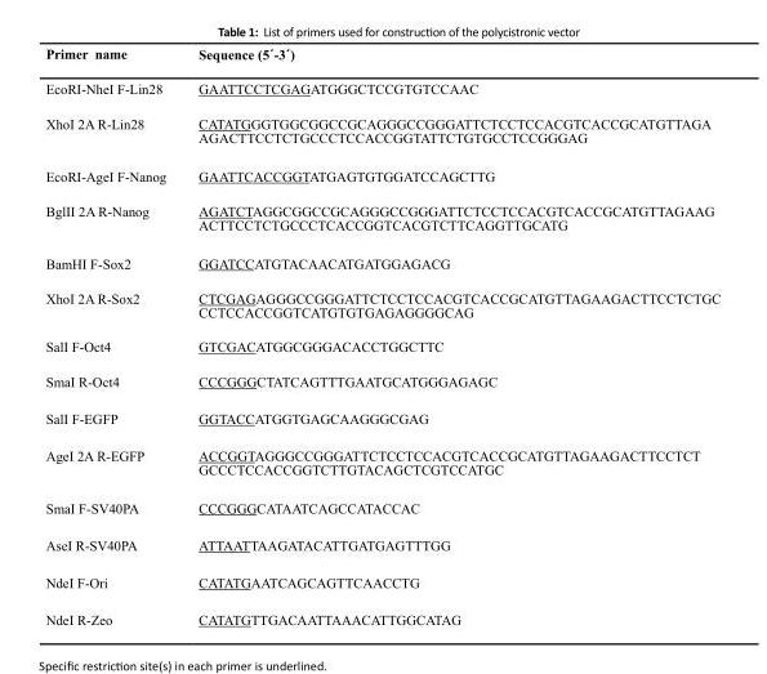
<table><thead><tr><td>Primer name</td><td>Sequence (5´-3´)</td></tr></thead><tbody><tr><td>EcoRI-NheI F-Lin28</td><td>GAATTCCTCGAGATGGGCTCCGTGTCCAAC</td></tr><tr><td>XhoI 2A R-Lin28</td><td>CATATGGGTGGCGGCCGCAGGGCCGGGATTCTCCTCCACGTCACCGCATGTTAGA AGACTTCCTCTGCCCTCCACCGGTATTCTGTGCCTCCGGGAG</td></tr><tr><td>EcoRI-AgeI F-Nanog</td><td>GAATTCACCGGTATGAGTGTGGATCCAGCTTG</td></tr><tr><td>BglII 2A R-Nanog</td><td>AGATCTAGGCGGCCGCAGGGCCGGGATTCTCCTCCACGTCACCGCATGTTAGAAG ACTTCCTCTGCCCTCACCGGTCACGTCTTCAGGTTGCATG</td></tr><tr><td>BamHI F-Sox2</td><td>GGATCCATGTACAACATGATGGAGACG</td></tr><tr><td>XhoI 2A R-Sox2</td><td>CTCGAGAGGGCCGGGATTCTCCTCCACGTCACCGCATGTTAGAAGACTTCCTCTGC CCTCCACCGGTCATGTGTGAGAGGGGCAG</td></tr><tr><td>SalI F-Oct4</td><td>GTCGACATGGCGGGACACCTGGCTTC</td></tr><tr><td>SmaI R-Oct4</td><td>CCCGGGCTATCAGTTTGAATGCATGGGAGAGC</td></tr><tr><td>SalI F-EGFP</td><td>GGTACCATGGTGAGCAAGGGCGAG</td></tr><tr><td>AgeI 2A R-EGFP</td><td>ACCGGTAGGGCCGGGATTCTCCTCCACGTCACCGCATGTTAGAAGACTTCCTCT GCCCTCCACCGGTCTTGTACAGCTCGTCCATGC</td></tr><tr><td>SmaI F-SV40PA</td><td>CCCGGGCATAATCAGCCATACCAC</td></tr><tr><td>AseI R-SV40PA</td><td>ATTAATTAAGATACATTGATGAGTTTGG</td></tr><tr><td>NdeI F-Ori</td><td>CATATGAATCAGCAGTTCAACCTG</td></tr><tr><td>NdeI R-Zeo</td><td>CATATGTTGACAATTAAACATTGGCATAG</td></tr></tbody></table>